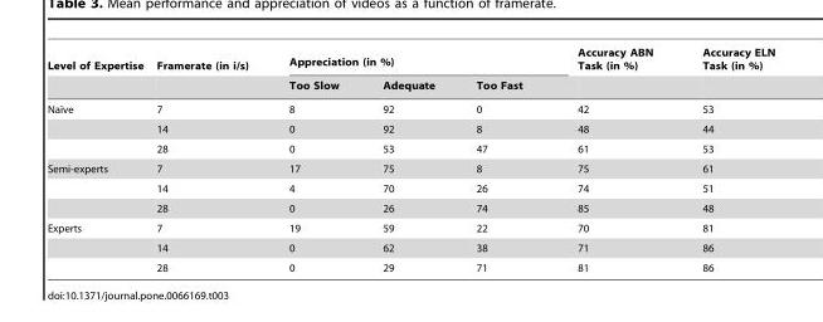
<table><thead><tr><td rowspan="2">Level of Expertise</td><td rowspan="2">Framerate (in i/s)</td><td colspan="3">Appreciation (in %)</td><td rowspan="2">Accuracy ABN Task (in %)</td><td rowspan="2">Accuracy ELN Task (in %)</td></tr><tr><td>Too Slow</td><td>Adequate</td><td>Too Fast</td></tr></thead><tbody><tr><td rowspan="3">Naı¨ve</td><td>7</td><td>8</td><td>92</td><td>0</td><td>42</td><td>53</td></tr><tr><td>14</td><td>0</td><td>92</td><td>8</td><td>48</td><td>44</td></tr><tr><td>28</td><td>0</td><td>53</td><td>47</td><td>61</td><td>53</td></tr><tr><td rowspan="3">Semi-experts</td><td>7</td><td>17</td><td>75</td><td>8</td><td>75</td><td>61</td></tr><tr><td>14</td><td>4</td><td>70</td><td>26</td><td>74</td><td>51</td></tr><tr><td>28</td><td>0</td><td>26</td><td>74</td><td>85</td><td>48</td></tr><tr><td rowspan="3">Experts</td><td>7</td><td>19</td><td>59</td><td>22</td><td>70</td><td>81</td></tr><tr><td>14</td><td>0</td><td>62</td><td>38</td><td>71</td><td>86</td></tr><tr><td>28</td><td>0</td><td>29</td><td>71</td><td>81</td><td>86</td></tr></tbody></table>